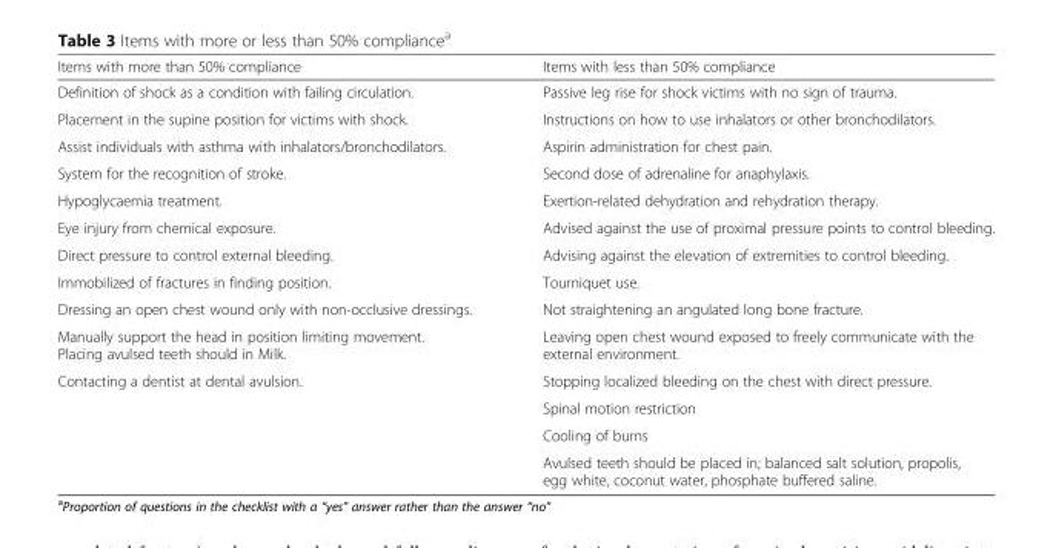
<table><thead><tr><td>Items with more than 50% compliance</td><td>Items with less than 50% compliance</td></tr></thead><tbody><tr><td>Definition of shock as a condition with failing circulation.</td><td>Passive leg rise for shock victims with no sign of trauma.</td></tr><tr><td>Placement in the supine position for victims with shock.</td><td>Instructions on how to use inhalators or other bronchodilators.</td></tr><tr><td>Assist individuals with asthma with inhalators/bronchodilators.</td><td>Aspirin administration for chest pain.</td></tr><tr><td>System for the recognition of stroke.</td><td>Second dose of adrenaline for anaphylaxis.</td></tr><tr><td>Hypoglycaemia treatment.</td><td>Exertion-related dehydration and rehydration therapy.</td></tr><tr><td>Eye injury from chemical exposure.</td><td>Advised against the use of proximal pressure points to control bleeding.</td></tr><tr><td>Direct pressure to control external bleeding.</td><td>Advising against the elevation of extremities to control bleeding.</td></tr><tr><td>Immobilized of fractures in finding position.</td><td>Tourniquet use.</td></tr><tr><td>Dressing an open chest wound only with non-occlusive dressings.</td><td>Not straightening an angulated long bone fracture.</td></tr><tr><td>Manually support the head in position limiting movement. Placing avulsed teeth should in Milk.</td><td>Leaving open chest wound exposed to freely communicate with the external environment.</td></tr><tr><td rowspan="4">Contacting a dentist at dental avulsion.</td><td>Stopping localized bleeding on the chest with direct pressure.</td></tr><tr><td>Spinal motion restriction</td></tr><tr><td>Cooling of burns</td></tr><tr><td>Avulsed teeth should be placed in; balanced salt solution, propolis, egg white, coconut water, phosphate buffered saline.</td></tr></tbody></table>